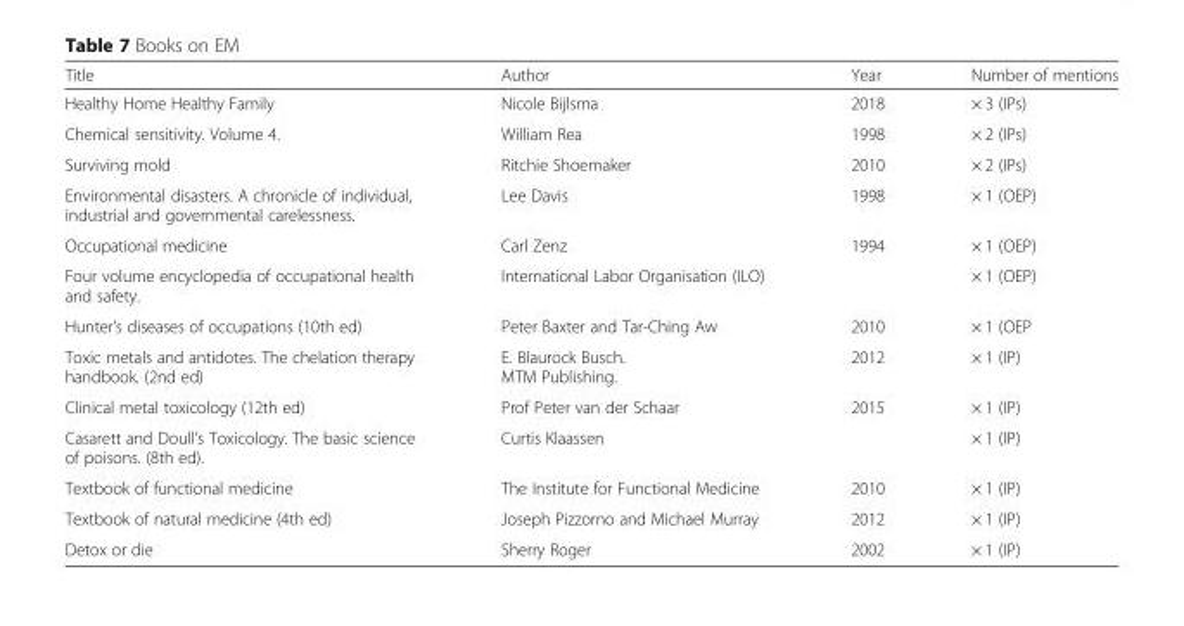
<table><thead><tr><td>Title</td><td>Author</td><td>Year</td><td>Number of mentions</td></tr></thead><tbody><tr><td>Healthy Home Healthy Family</td><td>Nicole Bijlsma</td><td>2018</td><td>× 3 (IPs)</td></tr><tr><td>Chemical sensitivity. Volume 4.</td><td>William Rea</td><td>1998</td><td>× 2 (IPs)</td></tr><tr><td>Surviving mold</td><td>Ritchie Shoemaker</td><td>2010</td><td>× 2 (IPs)</td></tr><tr><td>Environmental disasters. A chronicle of individual, industrial and governmental carelessness.</td><td>Lee Davis</td><td>1998</td><td>× 1 (OEP)</td></tr><tr><td>Occupational medicine</td><td>Carl Zenz</td><td>1994</td><td>× 1 (OEP)</td></tr><tr><td>Four volume encyclopedia of occupational health and safety.</td><td>International Labor Organisation (ILO)</td><td></td><td>× 1 (OEP)</td></tr><tr><td>Hunter’s diseases of occupations (10th ed)</td><td>Peter Baxter and Tar-Ching Aw</td><td>2010</td><td>× 1 (OEP</td></tr><tr><td>Toxic metals and antidotes. The chelation therapy handbook. (2nd ed)</td><td>E. Blaurock Busch. MTM Publishing.</td><td>2012</td><td>× 1 (IP)</td></tr><tr><td>Clinical metal toxicology (12th ed)</td><td>Prof Peter van der Schaar</td><td>2015</td><td>× 1 (IP)</td></tr><tr><td>Casarett and Doull’s Toxicology. The basic science of poisons. (8th ed).</td><td>Curtis Klaassen</td><td></td><td>× 1 (IP)</td></tr><tr><td>Textbook of functional medicine</td><td>The Institute for Functional Medicine</td><td>2010</td><td>× 1 (IP)</td></tr><tr><td>Textbook of natural medicine (4th ed)</td><td>Joseph Pizzorno and Michael Murray</td><td>2012</td><td>× 1 (IP)</td></tr><tr><td>Detox or die</td><td>Sherry Roger</td><td>2002</td><td>× 1 (IP)</td></tr></tbody></table>